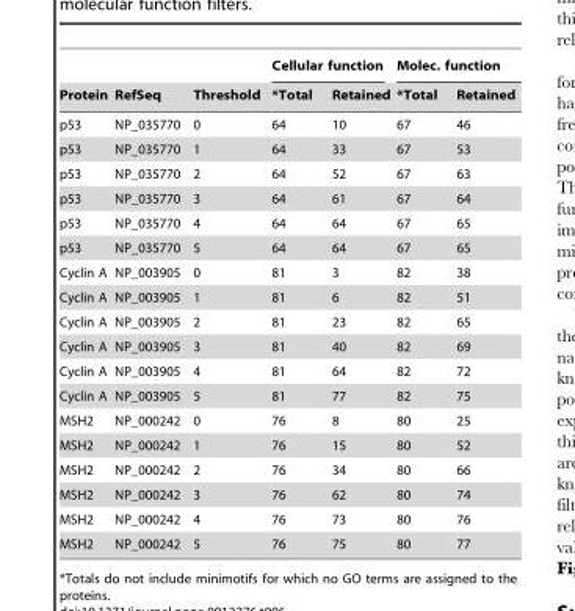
<table><thead><tr><td rowspan="2">Protein</td><td rowspan="2">RefSeq</td><td rowspan="2">Threshold</td><td colspan="2">Cellular function</td><td colspan="2">Molec. function</td></tr><tr><td>*Total</td><td>Retained</td><td>*Total</td><td>Retained</td></tr></thead><tbody><tr><td>p53</td><td>NP_035770</td><td>0</td><td>64</td><td>10</td><td>67</td><td>46</td></tr><tr><td>p53</td><td>NP_035770</td><td>1</td><td>64</td><td>33</td><td>67</td><td>53</td></tr><tr><td>p53</td><td>NP_035770</td><td>2</td><td>64</td><td>52</td><td>67</td><td>63</td></tr><tr><td>p53</td><td>NP_035770</td><td>3</td><td>64</td><td>61</td><td>67</td><td>64</td></tr><tr><td>p53</td><td>NP_035770</td><td>4</td><td>64</td><td>64</td><td>67</td><td>65</td></tr><tr><td>p53</td><td>NP_035770</td><td>5</td><td>64</td><td>64</td><td>67</td><td>65</td></tr><tr><td>Cyclin A</td><td>NP_003905</td><td>0</td><td>81</td><td>3</td><td>82</td><td>38</td></tr><tr><td>Cyclin A</td><td>NP_003905</td><td>1</td><td>81</td><td>6</td><td>82</td><td>51</td></tr><tr><td>Cyclin A</td><td>NP_003905</td><td>2</td><td>81</td><td>23</td><td>82</td><td>65</td></tr><tr><td>Cyclin A</td><td>NP_003905</td><td>3</td><td>81</td><td>40</td><td>82</td><td>69</td></tr><tr><td>Cyclin A</td><td>NP_003905</td><td>4</td><td>81</td><td>64</td><td>82</td><td>72</td></tr><tr><td>Cyclin A</td><td>NP_003905</td><td>5</td><td>81</td><td>77</td><td>82</td><td>75</td></tr><tr><td>MSH2</td><td>NP_000242</td><td>0</td><td>76</td><td>8</td><td>80</td><td>25</td></tr><tr><td>MSH2</td><td>NP_000242</td><td>1</td><td>76</td><td>15</td><td>80</td><td>52</td></tr><tr><td>MSH2</td><td>NP_000242</td><td>2</td><td>76</td><td>34</td><td>80</td><td>66</td></tr><tr><td>MSH2</td><td>NP_000242</td><td>3</td><td>76</td><td>62</td><td>80</td><td>74</td></tr><tr><td>MSH2</td><td>NP_000242</td><td>4</td><td>76</td><td>73</td><td>80</td><td>76</td></tr><tr><td>MSH2</td><td>NP_000242</td><td>5</td><td>76</td><td>75</td><td>80</td><td>77</td></tr></tbody></table>